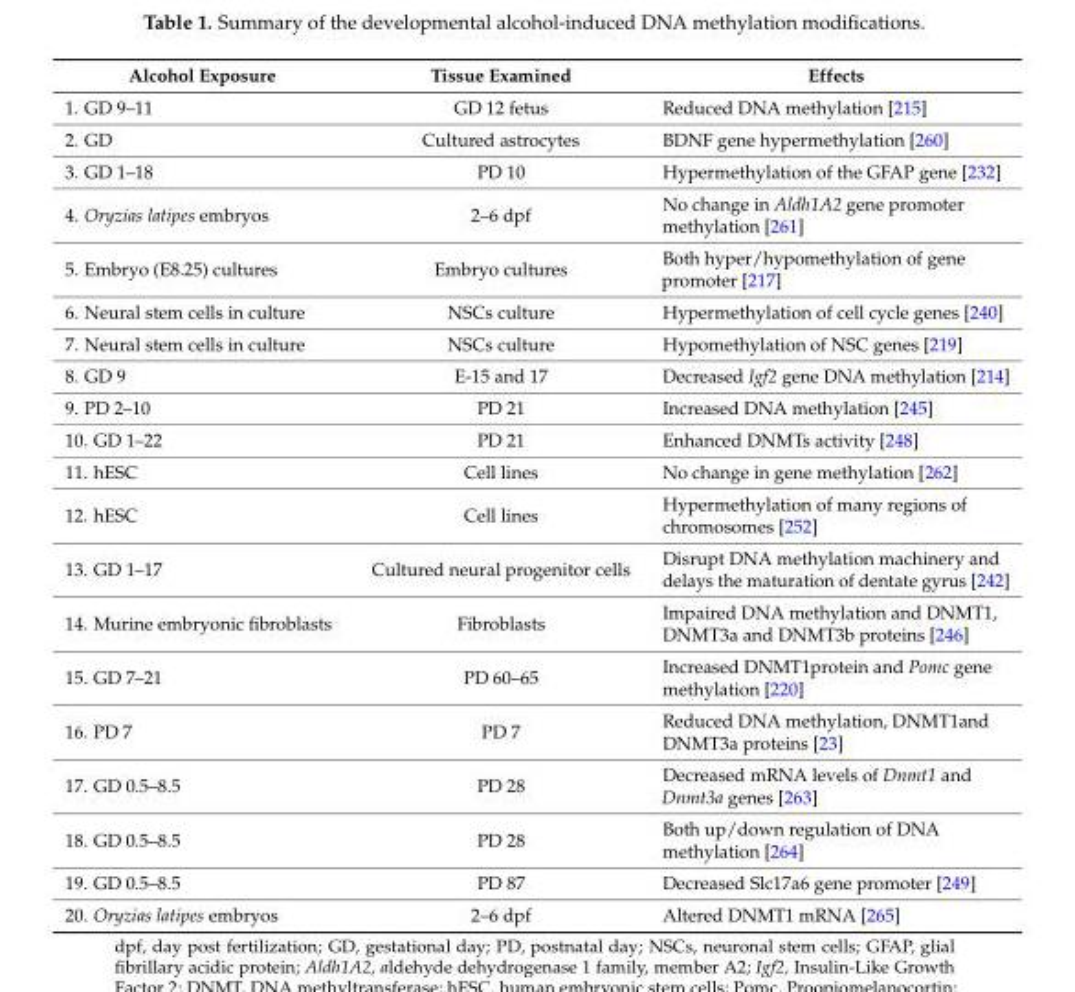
<table><thead><tr><td>Alcohol Exposure</td><td>Tissue Examined</td><td>Effects</td></tr></thead><tbody><tr><td>1. GD 9–11</td><td>GD 12 fetus</td><td>Reduced DNA methylation [215]</td></tr><tr><td>2. GD</td><td>Cultured astrocytes</td><td>BDNF gene hypermethylation [260]</td></tr><tr><td>3. GD 1–18</td><td>PD 10</td><td>Hypermethylation of the GFAP gene [232]</td></tr><tr><td>4. Oryzias latipes embryos</td><td>2–6 dpf</td><td>No change in Aldh1A2 gene promoter methylation [261]</td></tr><tr><td>5. Embryo (E8.25) cultures</td><td>Embryo cultures</td><td>Both hyper/hypomethylation of gene promoter [217]</td></tr><tr><td>6. Neural stem cells in culture</td><td>NSCs culture</td><td>Hypermethylation of cell cycle genes [240]</td></tr><tr><td>7. Neural stem cells in culture</td><td>NSCs culture</td><td>Hypomethylation of NSC genes [219]</td></tr><tr><td>8. GD 9</td><td>E-15 and 17</td><td>Decreased Igf2 gene DNA methylation [214]</td></tr><tr><td>9. PD 2–10</td><td>PD 21</td><td>Increased DNA methylation [245]</td></tr><tr><td>10. GD 1–22</td><td>PD 21</td><td>Enhanced DNMTs activity [248]</td></tr><tr><td>11. hESC</td><td>Cell lines</td><td>No change in gene methylation [262]</td></tr><tr><td>12. hESC</td><td>Cell lines</td><td>Hypermethylation of many regions of chromosomes [252]</td></tr><tr><td>13. GD 1–17</td><td>Cultured neural progenitor cells</td><td>Disrupt DNA methylation machinery and delays the maturation of dentate gyrus [242]</td></tr><tr><td>14. Murine embryonic fibroblasts</td><td>Fibroblasts</td><td>Impaired DNA methylation and DNMT1, DNMT3a and DNMT3b proteins [246]</td></tr><tr><td>15. GD 7–21</td><td>PD 60–65</td><td>Increased DNMT1protein and Pomc gene methylation [220]</td></tr><tr><td>16. PD 7</td><td>PD 7</td><td>Reduced DNA methylation, DNMT1and DNMT3a proteins [23]</td></tr><tr><td>17. GD 0.5–8.5</td><td>PD 28</td><td>Decreased mRNA levels of Dnmt1 and Dnmt3a genes [263]</td></tr><tr><td>18. GD 0.5–8.5</td><td>PD 28</td><td>Both up/down regulation of DNA methylation [264]</td></tr><tr><td>19. GD 0.5–8.5</td><td>PD 87</td><td>Decreased Slc17a6 gene promoter [249]</td></tr><tr><td>20. Oryzias latipes embryos</td><td>2–6 dpf</td><td>Altered DNMT1 mRNA [265]</td></tr></tbody></table>